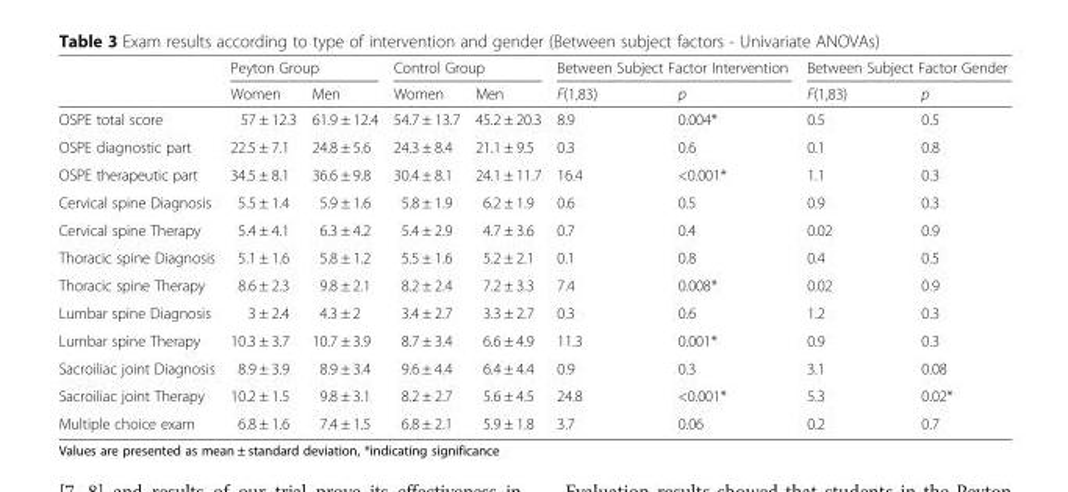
<table><thead><tr><td rowspan="2"></td><td colspan="2">Peyton Group</td><td colspan="2">Control Group</td><td colspan="2">Between Subject Factor Intervention</td><td colspan="2">Between Subject Factor Gender</td></tr><tr><td>Women</td><td>Men</td><td>Women</td><td>Men</td><td>F(1,83)</td><td>p</td><td>F(1,83)</td><td>p</td></tr></thead><tbody><tr><td>OSPE total score</td><td>57 ± 12.3</td><td>61.9 ± 12.4</td><td>54.7 ± 13.7</td><td>45.2 ± 20.3</td><td>8.9</td><td>0.004*</td><td>0.5</td><td>0.5</td></tr><tr><td>OSPE diagnostic part</td><td>22.5 ± 7.1</td><td>24.8 ± 5.6</td><td>24.3 ± 8.4</td><td>21.1 ± 9.5</td><td>0.3</td><td>0.6</td><td>0.1</td><td>0.8</td></tr><tr><td>OSPE therapeutic part</td><td>34.5 ± 8.1</td><td>36.6 ± 9.8</td><td>30.4 ± 8.1</td><td>24.1 ± 11.7</td><td>16.4</td><td>&lt;0.001*</td><td>1.1</td><td>0.3</td></tr><tr><td>Cervical spine Diagnosis</td><td>5.5 ± 1.4</td><td>5.9 ± 1.6</td><td>5.8 ± 1.9</td><td>6.2 ± 1.9</td><td>0.6</td><td>0.5</td><td>0.9</td><td>0.3</td></tr><tr><td>Cervical spine Therapy</td><td>5.4 ± 4.1</td><td>6.3 ± 4.2</td><td>5.4 ± 2.9</td><td>4.7 ± 3.6</td><td>0.7</td><td>0.4</td><td>0.02</td><td>0.9</td></tr><tr><td>Thoracic spine Diagnosis</td><td>5.1 ± 1.6</td><td>5.8 ± 1.2</td><td>5.5 ± 1.6</td><td>5.2 ± 2.1</td><td>0.1</td><td>0.8</td><td>0.4</td><td>0.5</td></tr><tr><td>Thoracic spine Therapy</td><td>8.6 ± 2.3</td><td>9.8 ± 2.1</td><td>8.2 ± 2.4</td><td>7.2 ± 3.3</td><td>7.4</td><td>0.008*</td><td>0.02</td><td>0.9</td></tr><tr><td>Lumbar spine Diagnosis</td><td>3 ± 2.4</td><td>4.3 ± 2</td><td>3.4 ± 2.7</td><td>3.3 ± 2.7</td><td>0.3</td><td>0.6</td><td>1.2</td><td>0.3</td></tr><tr><td>Lumbar spine Therapy</td><td>10.3 ± 3.7</td><td>10.7 ± 3.9</td><td>8.7 ± 3.4</td><td>6.6 ± 4.9</td><td>11.3</td><td>0.001*</td><td>0.9</td><td>0.3</td></tr><tr><td>Sacroiliac joint Diagnosis</td><td>8.9 ± 3.9</td><td>8.9 ± 3.4</td><td>9.6 ± 4.4</td><td>6.4 ± 4.4</td><td>0.9</td><td>0.3</td><td>3.1</td><td>0.08</td></tr><tr><td>Sacroiliac joint Therapy</td><td>10.2 ± 1.5</td><td>9.8 ± 3.1</td><td>8.2 ± 2.7</td><td>5.6 ± 4.5</td><td>24.8</td><td>&lt;0.001*</td><td>5.3</td><td>0.02*</td></tr><tr><td>Multiple choice exam</td><td>6.8 ± 1.6</td><td>7.4 ± 1.5</td><td>6.8 ± 2.1</td><td>5.9 ± 1.8</td><td>3.7</td><td>0.06</td><td>0.2</td><td>0.7</td></tr></tbody></table>